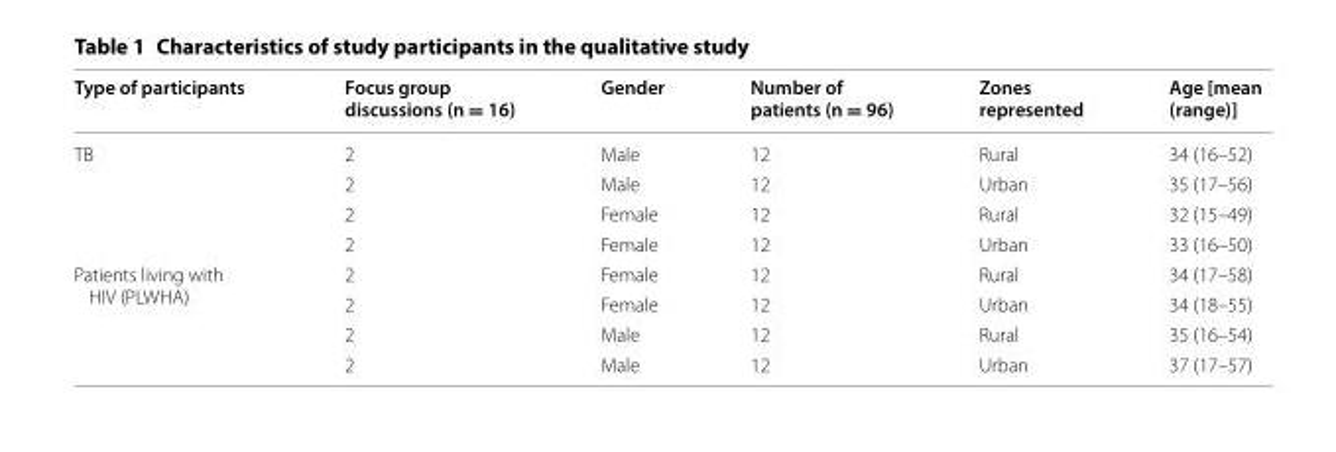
<table><thead><tr><td>Type of participants</td><td>Focus group discussions (n = 16)</td><td>Gender</td><td>Number of patients (n = 96)</td><td>Zones represented</td><td>Age [mean (range)]</td></tr></thead><tbody><tr><td rowspan="4">TB</td><td>2</td><td>Male</td><td>12</td><td>Rural</td><td>34 (16–52)</td></tr><tr><td>2</td><td>Male</td><td>12</td><td>Urban</td><td>35 (17–56)</td></tr><tr><td>2</td><td>Female</td><td>12</td><td>Rural</td><td>32 (15–49)</td></tr><tr><td>2</td><td>Female</td><td>12</td><td>Urban</td><td>33 (16–50)</td></tr><tr><td rowspan="4">Patients living with HIV (PLWHA)</td><td>2</td><td>Female</td><td>12</td><td>Rural</td><td>34 (17–58)</td></tr><tr><td>2</td><td>Female</td><td>12</td><td>Urban</td><td>34 (18–55)</td></tr><tr><td>2</td><td>Male</td><td>12</td><td>Rural</td><td>35 (16–54)</td></tr><tr><td>2</td><td>Male</td><td>12</td><td>Urban</td><td>37 (17–57)</td></tr></tbody></table>